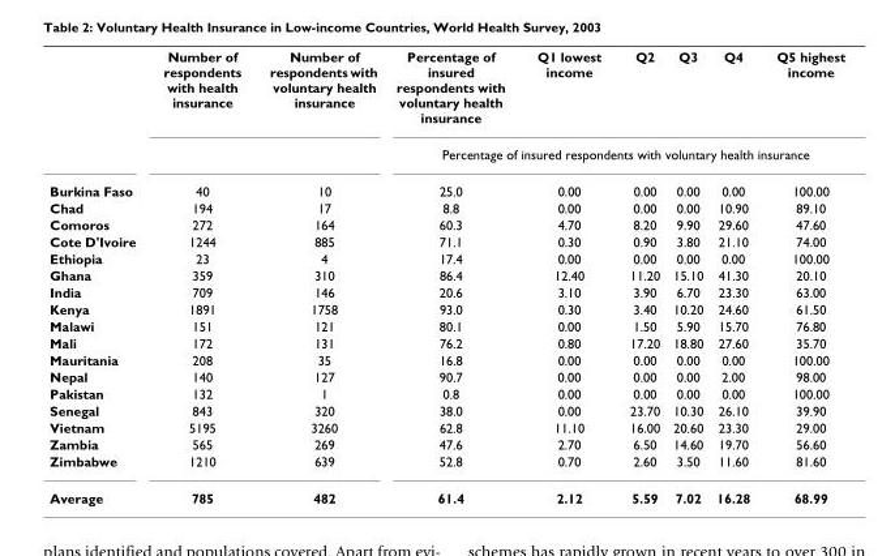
<table><thead><tr><td></td><td>Number of respondents with health insurance</td><td>Number of respondents with voluntary health insurance</td><td>Percentage of insured respondents with voluntary health insurance</td><td>Q1 lowest income</td><td>Q2</td><td>Q3</td><td>Q4</td><td>Q5 highest income</td></tr></thead><tbody><tr><td></td><td></td><td></td><td colspan="6">Percentage of insured respondents with voluntary health insurance</td></tr><tr><td>Burkina Faso</td><td>40</td><td>10</td><td>25.0</td><td>0.00</td><td>0.00</td><td>0.00</td><td>0.00</td><td>100.00</td></tr><tr><td>Chad</td><td>194</td><td>17</td><td>8.8</td><td>0.00</td><td>0.00</td><td>0.00</td><td>10.90</td><td>89.10</td></tr><tr><td>Comoros</td><td>272</td><td>164</td><td>60.3</td><td>4.70</td><td>8.20</td><td>9.90</td><td>29.60</td><td>47.60</td></tr><tr><td>Cote D&#x27;Ivoire</td><td>1244</td><td>885</td><td>71.1</td><td>0.30</td><td>0.90</td><td>3.80</td><td>21.10</td><td>74.00</td></tr><tr><td>Ethiopia</td><td>23</td><td>4</td><td>17.4</td><td>0.00</td><td>0.00</td><td>0.00</td><td>0.00</td><td>100.00</td></tr><tr><td>Ghana</td><td>359</td><td>310</td><td>86.4</td><td>12.40</td><td>11.20</td><td>15.10</td><td>41.30</td><td>20.10</td></tr><tr><td>India</td><td>709</td><td>146</td><td>20.6</td><td>3.10</td><td>3.90</td><td>6.70</td><td>23.30</td><td>63.00</td></tr><tr><td>Kenya</td><td>1891</td><td>1758</td><td>93.0</td><td>0.30</td><td>3.40</td><td>10.20</td><td>24.60</td><td>61.50</td></tr><tr><td>Malawi</td><td>151</td><td>121</td><td>80.1</td><td>0.00</td><td>1.50</td><td>5.90</td><td>15.70</td><td>76.80</td></tr><tr><td>Mali</td><td>172</td><td>131</td><td>76.2</td><td>0.80</td><td>17.20</td><td>18.80</td><td>27.60</td><td>35.70</td></tr><tr><td>Mauritania</td><td>208</td><td>35</td><td>16.8</td><td>0.00</td><td>0.00</td><td>0.00</td><td>0.00</td><td>100.00</td></tr><tr><td>Nepal</td><td>140</td><td>127</td><td>90.7</td><td>0.00</td><td>0.00</td><td>0.00</td><td>2.00</td><td>98.00</td></tr><tr><td>Pakistan</td><td>132</td><td>1</td><td>0.8</td><td>0.00</td><td>0.00</td><td>0.00</td><td>0.00</td><td>100.00</td></tr><tr><td>Senegal</td><td>843</td><td>320</td><td>38.0</td><td>0.00</td><td>23.70</td><td>10.30</td><td>26.10</td><td>39.90</td></tr><tr><td>Vietnam</td><td>5195</td><td>3260</td><td>62.8</td><td>11.10</td><td>16.00</td><td>20.60</td><td>23.30</td><td>29.00</td></tr><tr><td>Zambia</td><td>565</td><td>269</td><td>47.6</td><td>2.70</td><td>6.50</td><td>14.60</td><td>19.70</td><td>56.60</td></tr><tr><td>Zimbabwe</td><td>1210</td><td>639</td><td>52.8</td><td>0.70</td><td>2.60</td><td>3.50</td><td>11.60</td><td>81.60</td></tr><tr><td>Average</td><td>785</td><td>482</td><td>61.4</td><td>2.12</td><td>5.59</td><td>7.02</td><td>16.28</td><td>68.99</td></tr></tbody></table>